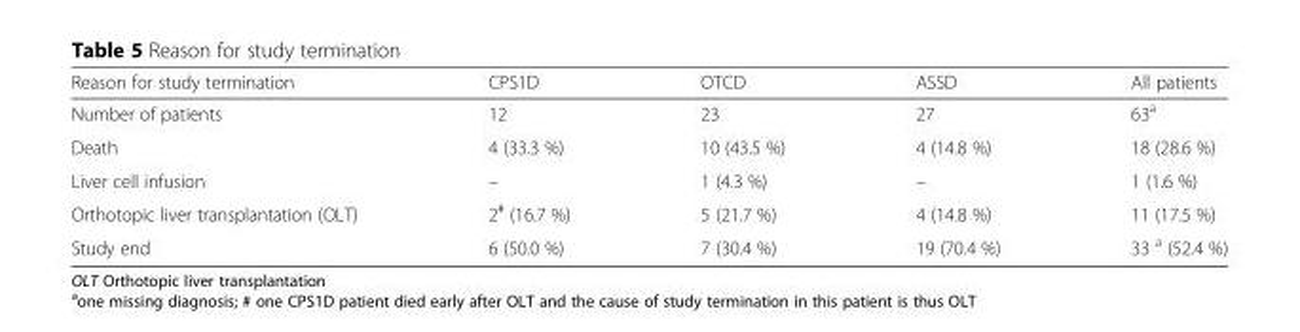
<table><thead><tr><td>Reason for study termination</td><td>CPS1D</td><td>OTCD</td><td>ASSD</td><td>All patients</td></tr></thead><tbody><tr><td>Number of patients</td><td>12</td><td>23</td><td>27</td><td>63<sup>a</sup></td></tr><tr><td>Death</td><td>4 (33.3 %)</td><td>10 (43.5 %)</td><td>4 (14.8 %)</td><td>18 (28.6 %)</td></tr><tr><td>Liver cell infusion</td><td>–</td><td>1 (4.3 %)</td><td>–</td><td>1 (1.6 %)</td></tr><tr><td>Orthotopic liver transplantation (OLT)</td><td>2<sup>#</sup> (16.7 %)</td><td>5 (21.7 %)</td><td>4 (14.8 %)</td><td>11 (17.5 %)</td></tr><tr><td>Study end</td><td>6 (50.0 %)</td><td>7 (30.4 %)</td><td>19 (70.4 %)</td><td>33 <sup>a</sup> (52.4 %)</td></tr></tbody></table>